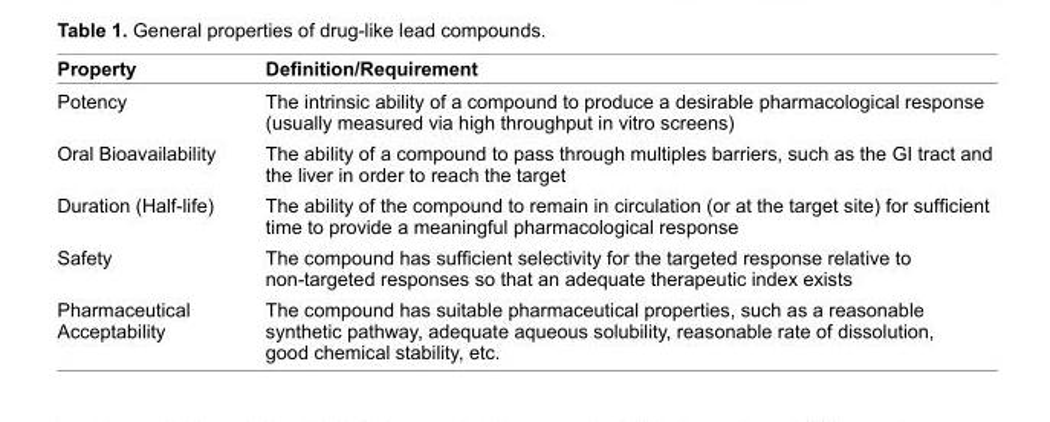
<table><thead><tr><td>Property</td><td>Defi nition/Requirement</td></tr></thead><tbody><tr><td>Potency</td><td>The intrinsic ability of a compound to produce a desirable pharmacological response (usually measured via high throughput in vitro screens)</td></tr><tr><td>Oral Bioavailability</td><td>The ability of a compound to pass through multiples barriers, such as the GI tract and the liver in order to reach the target</td></tr><tr><td>Duration (Half-life)</td><td>The ability of the compound to remain in circulation (or at the target site) for suffi cient time to provide a meaningful pharmacological response</td></tr><tr><td>Safety</td><td>The compound has suffi cient selectivity for the targeted response relative to non-targeted responses so that an adequate therapeutic index exists</td></tr><tr><td>Pharmaceutical Acceptability</td><td>The compound has suitable pharmaceutical properties, such as a reasonable synthetic pathway, adequate aqueous solubility, reasonable rate of dissolution, good chemical stability, etc.</td></tr></tbody></table>